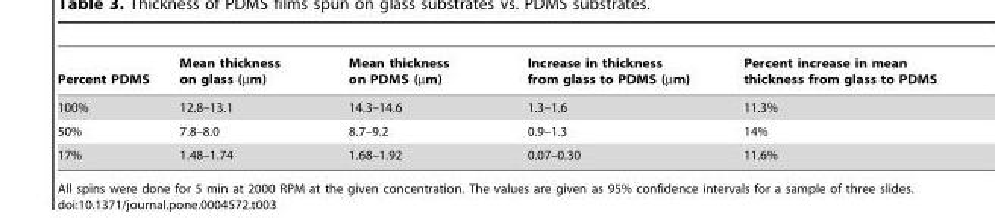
<table><thead><tr><td>Percent PDMS</td><td>Mean thickness on glass (µm)</td><td>Mean thickness on PDMS (µm)</td><td>Increase in thickness from glass to PDMS (µm)</td><td>Percent increase in mean thickness from glass to PDMS</td></tr></thead><tbody><tr><td>100%</td><td>12.8–13.1</td><td>14.3–14.6</td><td>1.3–1.6</td><td>11.3%</td></tr><tr><td>50%</td><td>7.8–8.0</td><td>8.7–9.2</td><td>0.9–1.3</td><td>14%</td></tr><tr><td>17%</td><td>1.48–1.74</td><td>1.68–1.92</td><td>0.07–0.30</td><td>11.6%</td></tr></tbody></table>